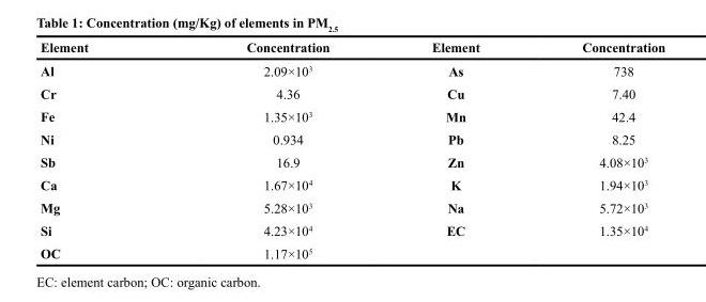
<table><thead><tr><td>Element</td><td>Concentration</td><td>Element</td><td>Concentration</td></tr></thead><tbody><tr><td>Al</td><td>2.09×10<sup>3</sup></td><td>As</td><td>738</td></tr><tr><td>Cr</td><td>4.36</td><td>Cu</td><td>7.40</td></tr><tr><td>Fe</td><td>1.35×10<sup>3</sup></td><td>Mn</td><td>42.4</td></tr><tr><td>Ni</td><td>0.934</td><td>Pb</td><td>8.25</td></tr><tr><td>Sb</td><td>16.9</td><td>Zn</td><td>4.08×10<sup>3</sup></td></tr><tr><td>Ca</td><td>1.67×10<sup>4</sup></td><td>K</td><td>1.94×10<sup>3</sup></td></tr><tr><td>Mg</td><td>5.28×10<sup>3</sup></td><td>Na</td><td>5.72×10<sup>3</sup></td></tr><tr><td>Si</td><td>4.23×10<sup>4</sup></td><td>EC</td><td>1.35×10<sup>4</sup></td></tr><tr><td>OC</td><td>1.17×10<sup>5</sup></td><td></td><td></td></tr></tbody></table>